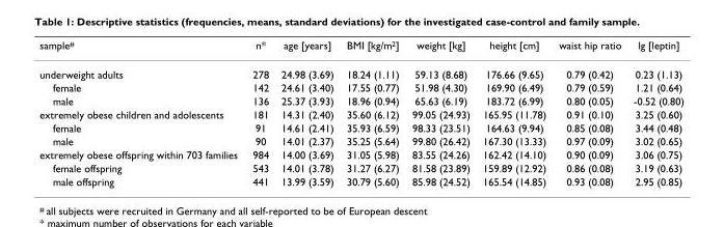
<table><thead><tr><td>sample<sup>#</sup></td><td>n*</td><td>age [years]</td><td>BMI [kg/m<sup>2</sup>]</td><td>weight [kg]</td><td>height [cm]</td><td>waist hip ratio</td><td>lg [leptin]</td></tr></thead><tbody><tr><td>underweight adults</td><td>278</td><td>24.98 (3.69)</td><td>18.24 (1.11)</td><td>59.13 (8.68)</td><td>176.66 (9.65)</td><td>0.79 (0.42)</td><td>0.23 (1.13)</td></tr><tr><td>female</td><td>142</td><td>24.61 (3.40)</td><td>17.55 (0.77)</td><td>51.98 (4.30)</td><td>169.90 (6.49)</td><td>0.79 (0.59)</td><td>1.21 (0.64)</td></tr><tr><td>male</td><td>136</td><td>25.37 (3.93)</td><td>18.96 (0.94)</td><td>65.63 (6.19)</td><td>183.72 (6.99)</td><td>0.80 (0.05)</td><td>-0.52 (0.80)</td></tr><tr><td>extremely obese children and adolescents</td><td>181</td><td>14.31 (2.40)</td><td>35.60 (6.12)</td><td>99.05 (24.93)</td><td>165.95 (11.78)</td><td>0.91 (0.10)</td><td>3.25 (0.60)</td></tr><tr><td>female</td><td>91</td><td>14.61 (2.41)</td><td>35.93 (6.59)</td><td>98.33 (23.51)</td><td>164.63 (9.94)</td><td>0.85 (0.08)</td><td>3.44 (0.48)</td></tr><tr><td>male</td><td>90</td><td>14.01 (2.37)</td><td>35.25 (5.64)</td><td>99.80 (26.42)</td><td>167.30 (13.33)</td><td>0.97 (0.09)</td><td>3.02 (0.65)</td></tr><tr><td>extremely obese offspring within 703 families</td><td>984</td><td>14.00 (3.69)</td><td>31.05 (5.98)</td><td>83.55 (24.26)</td><td>162.42 (14.10)</td><td>0.90 (0.09)</td><td>3.06 (0.75)</td></tr><tr><td>female offspring</td><td>543</td><td>14.01 (3.78)</td><td>31.27 (6.27)</td><td>81.58 (23.89)</td><td>159.89 (12.92)</td><td>0.86 (0.08)</td><td>3.19 (0.63)</td></tr><tr><td>male offspring</td><td>441</td><td>13.99 (3.59)</td><td>30.79 (5.60)</td><td>85.98 (24.52)</td><td>165.54 (14.85)</td><td>0.93 (0.08)</td><td>2.95 (0.85)</td></tr></tbody></table>